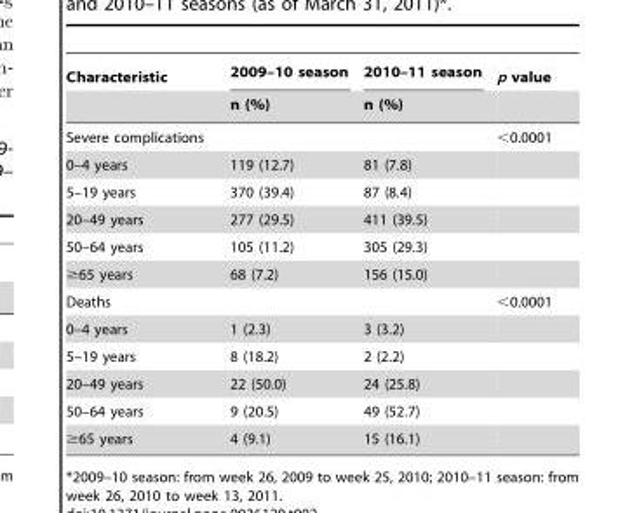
<table><thead><tr><td rowspan="2">Characteristic</td><td rowspan="2">2009–10 season n (%)</td><td rowspan="2">2010–11 season n (%)</td><td rowspan="2">p value</td></tr><tr></tr></thead><tbody><tr><td colspan="3">Severe complications</td><td>&lt;0.0001</td></tr><tr><td>0–4 years</td><td>119 (12.7)</td><td>81 (7.8)</td><td></td></tr><tr><td>5–19 years</td><td>370 (39.4)</td><td>87 (8.4)</td><td></td></tr><tr><td>20–49 years</td><td>277 (29.5)</td><td>411 (39.5)</td><td></td></tr><tr><td>50–64 years</td><td>105 (11.2)</td><td>305 (29.3)</td><td></td></tr><tr><td>≥65 years</td><td>68 (7.2)</td><td>156 (15.0)</td><td></td></tr><tr><td colspan="3">Deaths</td><td>&lt;0.0001</td></tr><tr><td>0–4 years</td><td>1 (2.3)</td><td>3 (3.2)</td><td></td></tr><tr><td>5–19 years</td><td>8 (18.2)</td><td>2 (2.2)</td><td></td></tr><tr><td>20–49 years</td><td>22 (50.0)</td><td>24 (25.8)</td><td></td></tr><tr><td>50–64 years</td><td>9 (20.5)</td><td>49 (52.7)</td><td></td></tr><tr><td>≥65 years</td><td>4 (9.1)</td><td>15 (16.1)</td><td></td></tr></tbody></table>